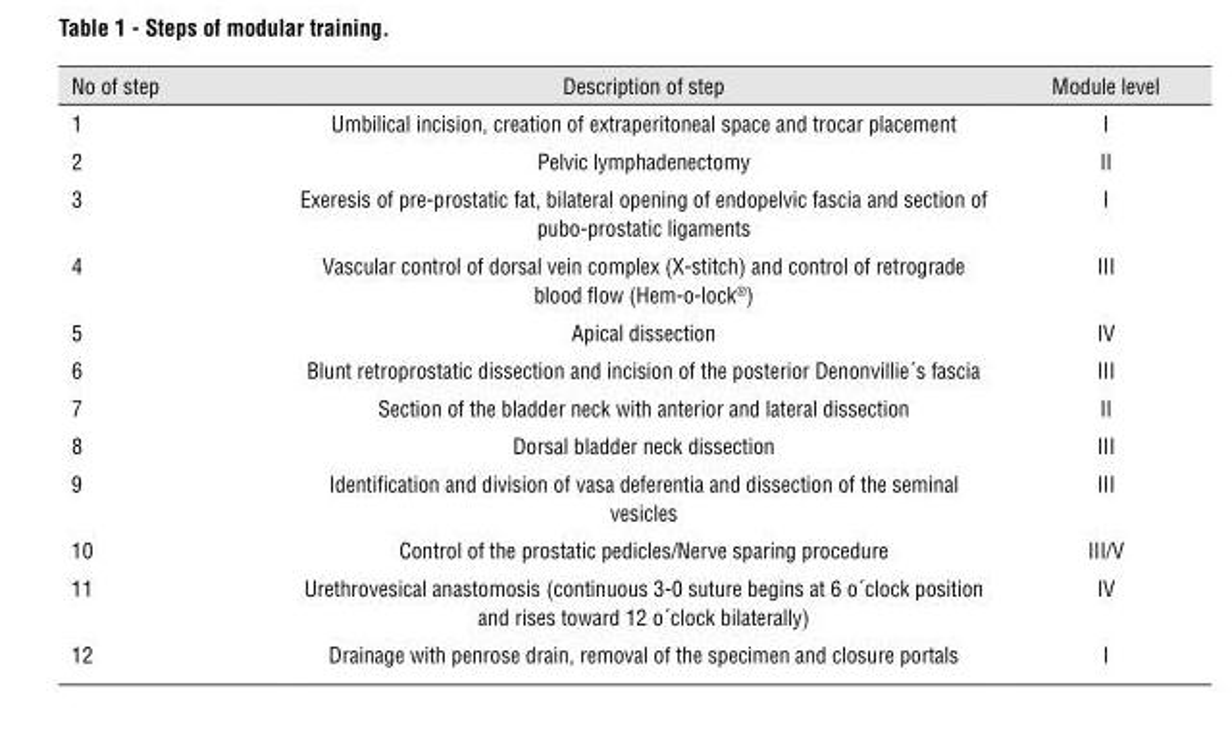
<table><thead><tr><td>No of step</td><td>Description of step</td><td>Module level</td></tr></thead><tbody><tr><td>1</td><td>Umbilical incision, creation of extraperitoneal space and trocar placement</td><td>I</td></tr><tr><td>2</td><td>Pelvic lymphadenectomy</td><td>II</td></tr><tr><td>3</td><td>Exeresis of pre-prostatic fat, bilateral opening of endopelvic fascia and section of pubo-prostatic ligaments</td><td>I</td></tr><tr><td>4</td><td>Vascular control of dorsal vein complex (X-stitch) and control of retrograde blood flow (Hem-o-lock<sup>®</sup>)</td><td>III</td></tr><tr><td>5</td><td>Apical dissection</td><td>IV</td></tr><tr><td>6</td><td>Blunt retroprostatic dissection and incision of the posterior Denonvillie´s fascia</td><td>III</td></tr><tr><td>7</td><td>Section of the bladder neck with anterior and lateral dissection</td><td>II</td></tr><tr><td>8</td><td>Dorsal bladder neck dissection</td><td>III</td></tr><tr><td>9</td><td>Identification and division of vasa deferentia and dissection of the seminal vesicles</td><td>III</td></tr><tr><td>10</td><td>Control of the prostatic pedicles/Nerve sparing procedure</td><td>III/V</td></tr><tr><td>11</td><td>Urethrovesical anastomosis (continuous 3-0 suture begins at 6 o´clock position and rises toward 12 o´clock bilaterally)</td><td>IV</td></tr><tr><td>12</td><td>Drainage with penrose drain, removal of the specimen and closure portals</td><td>I</td></tr></tbody></table>